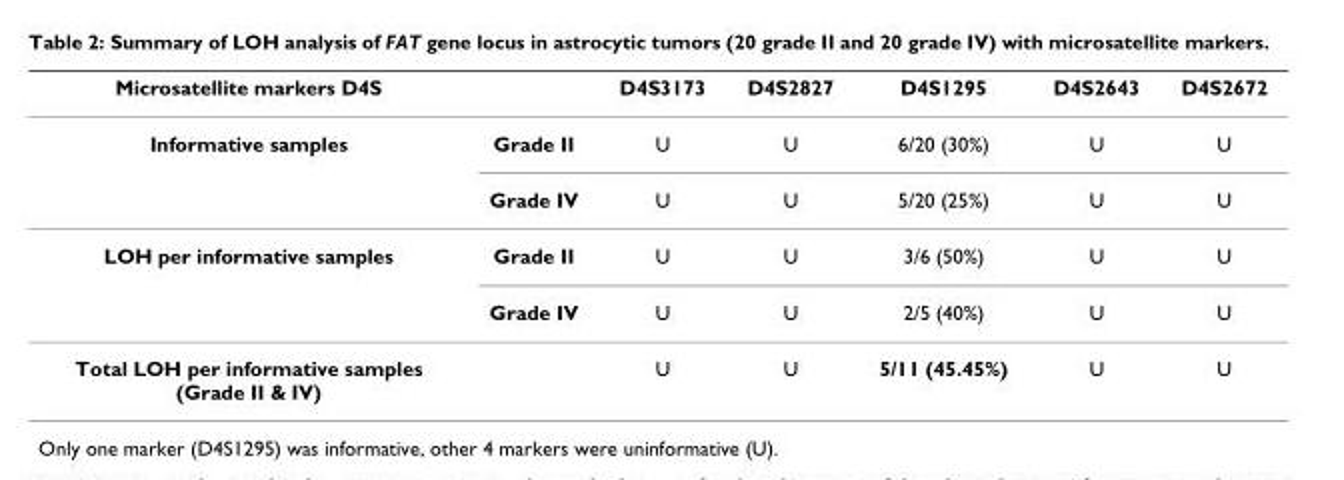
<table><thead><tr><td>Microsatellite markers D4S</td><td></td><td>D4S3173</td><td>D4S2827</td><td>D4S1295</td><td>D4S2643</td><td>D4S2672</td></tr></thead><tbody><tr><td rowspan="2">Informative samples</td><td>Grade II</td><td>U</td><td>U</td><td>6/20 (30%)</td><td>U</td><td>U</td></tr><tr><td>Grade IV</td><td>U</td><td>U</td><td>5/20 (25%)</td><td>U</td><td>U</td></tr><tr><td rowspan="2">LOH per informative samples</td><td>Grade II</td><td>U</td><td>U</td><td>3/6 (50%)</td><td>U</td><td>U</td></tr><tr><td>Grade IV</td><td>U</td><td>U</td><td>2/5 (40%)</td><td>U</td><td>U</td></tr><tr><td>Total LOH per informative samples (Grade II &amp; IV)</td><td></td><td>U</td><td>U</td><td>5/11 (45.45%)</td><td>U</td><td>U</td></tr></tbody></table>